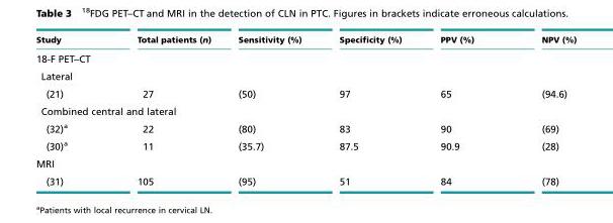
<table><thead><tr><td>Study</td><td>Total patients (n)</td><td>Sensitivity (%)</td><td>Specificity (%)</td><td>PPV (%)</td><td>NPV (%)</td></tr></thead><tbody><tr><td colspan="6">18-F PET–CT</td></tr><tr><td colspan="6">Lateral</td></tr><tr><td>(21)</td><td>27</td><td>(50)</td><td>97</td><td>65</td><td>(94.6)</td></tr><tr><td colspan="6">Combined central and lateral</td></tr><tr><td>(32)a</td><td>22</td><td>(80)</td><td>83</td><td>90</td><td>(69)</td></tr><tr><td>(30)a</td><td>11</td><td>(35.7)</td><td>87.5</td><td>90.9</td><td>(28)</td></tr><tr><td colspan="6">MRI</td></tr><tr><td>(31)</td><td>105</td><td>(95)</td><td>51</td><td>84</td><td>(78)</td></tr></tbody></table>